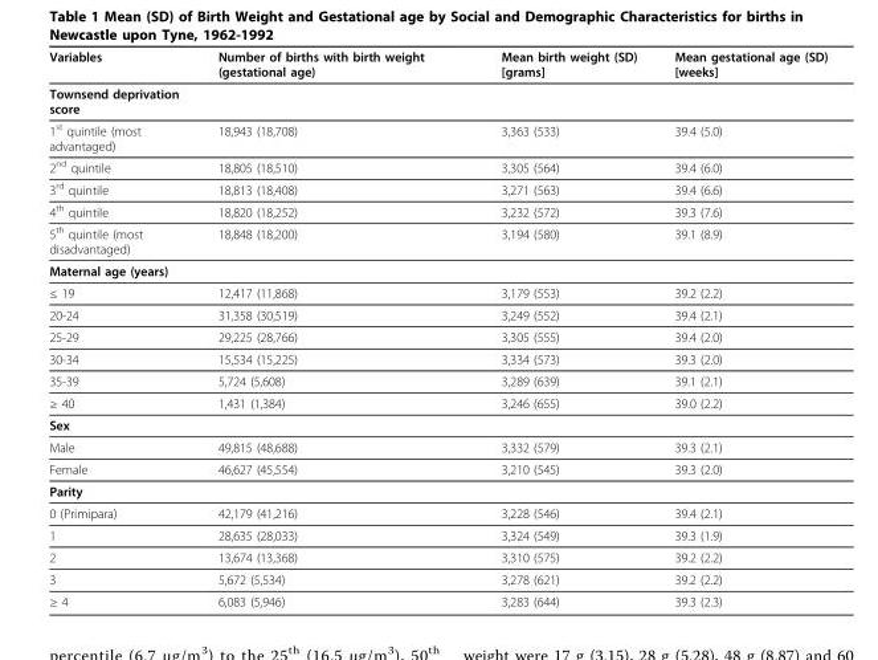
<table><thead><tr><td>Variables</td><td>Number of births with birth weight (gestational age)</td><td>Mean birth weight (SD) [grams]</td><td>Mean gestational age (SD) [weeks]</td></tr></thead><tbody><tr><td colspan="4">Townsend deprivation score</td></tr><tr><td>1<sup>st</sup> quintile (most advantaged)</td><td>18,943 (18,708)</td><td>3,363 (533)</td><td>39.4 (5.0)</td></tr><tr><td>2<sup>nd</sup> quintile</td><td>18,805 (18,510)</td><td>3,305 (564)</td><td>39.4 (6.0)</td></tr><tr><td>3<sup>rd</sup> quintile</td><td>18,813 (18,408)</td><td>3,271 (563)</td><td>39.4 (6.6)</td></tr><tr><td>4<sup>th</sup> quintile</td><td>18,820 (18,252)</td><td>3,232 (572)</td><td>39.3 (7.6)</td></tr><tr><td>5<sup>th</sup> quintile (most disadvantaged)</td><td>18,848 (18,200)</td><td>3,194 (580)</td><td>39.1 (8.9)</td></tr><tr><td colspan="4">Maternal age (years)</td></tr><tr><td>≤ 19</td><td>12,417 (11,868)</td><td>3,179 (553)</td><td>39.2 (2.2)</td></tr><tr><td>20-24</td><td>31,358 (30,519)</td><td>3,249 (552)</td><td>39.4 (2.1)</td></tr><tr><td>25-29</td><td>29,225 (28,766)</td><td>3,305 (555)</td><td>39.4 (2.0)</td></tr><tr><td>30-34</td><td>15,534 (15,225)</td><td>3,334 (573)</td><td>39.3 (2.0)</td></tr><tr><td>35-39</td><td>5,724 (5,608)</td><td>3,289 (639)</td><td>39.1 (2.1)</td></tr><tr><td>≥ 40</td><td>1,431 (1,384)</td><td>3,246 (655)</td><td>39.0 (2.2)</td></tr><tr><td colspan="4">Sex</td></tr><tr><td>Male</td><td>49,815 (48,688)</td><td>3,332 (579)</td><td>39.3 (2.1)</td></tr><tr><td>Female</td><td>46,627 (45,554)</td><td>3,210 (545)</td><td>39.3 (2.0)</td></tr><tr><td colspan="4">Parity</td></tr><tr><td>0 (Primipara)</td><td>42,179 (41,216)</td><td>3,228 (546)</td><td>39.4 (2.1)</td></tr><tr><td>1</td><td>28,635 (28,033)</td><td>3,324 (549)</td><td>39.3 (1.9)</td></tr><tr><td>2</td><td>13,674 (13,368)</td><td>3,310 (575)</td><td>39.2 (2.2)</td></tr><tr><td>3</td><td>5,672 (5,534)</td><td>3,278 (621)</td><td>39.2 (2.2)</td></tr><tr><td>≥ 4</td><td>6,083 (5,946)</td><td>3,283 (644)</td><td>39.3 (2.3)</td></tr></tbody></table>